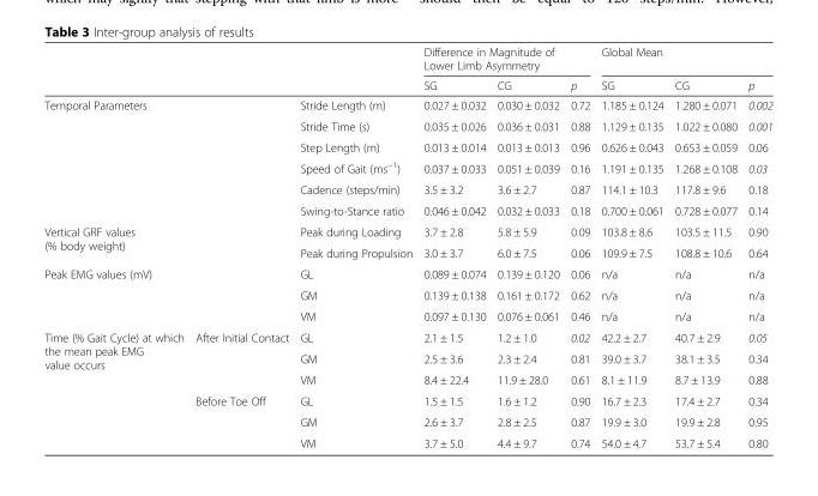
<table><thead><tr><td rowspan="2"></td><td rowspan="2"></td><td rowspan="2"></td><td colspan="3">Difference in Magnitude of Lower Limb Asymmetry</td><td colspan="3">Global Mean</td></tr><tr><td>SG</td><td>CG</td><td>p</td><td>SG</td><td>CG</td><td>p</td></tr></thead><tbody><tr><td rowspan="6" colspan="2">Temporal Parameters</td><td>Stride Length (m)</td><td>0.027 ± 0.032</td><td>0.030 ± 0.032</td><td>0.72</td><td>1.185 ± 0.124</td><td>1.280 ± 0.071</td><td>0.002</td></tr><tr><td>Stride Time (s)</td><td>0.035 ± 0.026</td><td>0.036 ± 0.031</td><td>0.88</td><td>1.129 ± 0.135</td><td>1.022 ± 0.080</td><td>0.001</td></tr><tr><td>Step Length (m)</td><td>0.013 ± 0.014</td><td>0.013 ± 0.013</td><td>0.96</td><td>0.626 ± 0.043</td><td>0.653 ± 0.059</td><td>0.06</td></tr><tr><td>Speed of Gait (ms<sup>−1</sup>)</td><td>0.037 ± 0.033</td><td>0.051 ± 0.039</td><td>0.16</td><td>1.191 ± 0.135</td><td>1.268 ± 0.108</td><td>0.03</td></tr><tr><td>Cadence (steps/min)</td><td>3.5 ± 3.2</td><td>3.6 ± 2.7</td><td>0.87</td><td>114.1 ± 10.3</td><td>117.8 ± 9.6</td><td>0.18</td></tr><tr><td>Swing-to-Stance ratio</td><td>0.046 ± 0.042</td><td>0.032 ± 0.033</td><td>0.18</td><td>0.700 ± 0.061</td><td>0.728 ± 0.077</td><td>0.14</td></tr><tr><td rowspan="2" colspan="2">Vertical GRF values (% body weight)</td><td>Peak during Loading</td><td>3.7 ± 2.8</td><td>5.8 ± 5.9</td><td>0.09</td><td>103.8 ± 8.6</td><td>103.5 ± 11.5</td><td>0.90</td></tr><tr><td>Peak during Propulsion</td><td>3.0 ± 3.7</td><td>6.0 ± 7.5</td><td>0.06</td><td>109.9 ± 7.5</td><td>108.8 ± 10.6</td><td>0.64</td></tr><tr><td rowspan="3" colspan="2">Peak EMG values (mV)</td><td>GL</td><td>0.089 ± 0.074</td><td>0.139 ± 0.120</td><td>0.06</td><td>n/a</td><td>n/a</td><td>n/a</td></tr><tr><td>GM</td><td>0.139 ± 0.138</td><td>0.161 ± 0.172</td><td>0.62</td><td>n/a</td><td>n/a</td><td>n/a</td></tr><tr><td>VM</td><td>0.097 ± 0.130</td><td>0.076 ± 0.061</td><td>0.46</td><td>n/a</td><td>n/a</td><td>n/a</td></tr><tr><td rowspan="6">Time (% Gait Cycle) at which the mean peak EMG value occurs</td><td rowspan="3">After Initial Contact</td><td>GL</td><td>2.1 ± 1.5</td><td>1.2 ± 1.0</td><td>0.02</td><td>42.2 ± 2.7</td><td>40.7 ± 2.9</td><td>0.05</td></tr><tr><td>GM</td><td>2.5 ± 3.6</td><td>2.3 ± 2.4</td><td>0.81</td><td>39.0 ± 3.7</td><td>38.1 ± 3.5</td><td>0.34</td></tr><tr><td>VM</td><td>8.4 ± 22.4</td><td>11.9 ± 28.0</td><td>0.61</td><td>8.1 ± 11.9</td><td>8.7 ± 13.9</td><td>0.88</td></tr><tr><td rowspan="3">Before Toe Off</td><td>GL</td><td>1.5 ± 1.5</td><td>1.6 ± 1.2</td><td>0.90</td><td>16.7 ± 2.3</td><td>17.4 ± 2.7</td><td>0.34</td></tr><tr><td>GM</td><td>2.6 ± 3.7</td><td>2.8 ± 2.5</td><td>0.87</td><td>19.9 ± 3.0</td><td>19.9 ± 2.8</td><td>0.95</td></tr><tr><td>VM</td><td>3.7 ± 5.0</td><td>4.4 ± 9.7</td><td>0.74</td><td>54.0 ± 4.7</td><td>53.7 ± 5.4</td><td>0.80</td></tr></tbody></table>